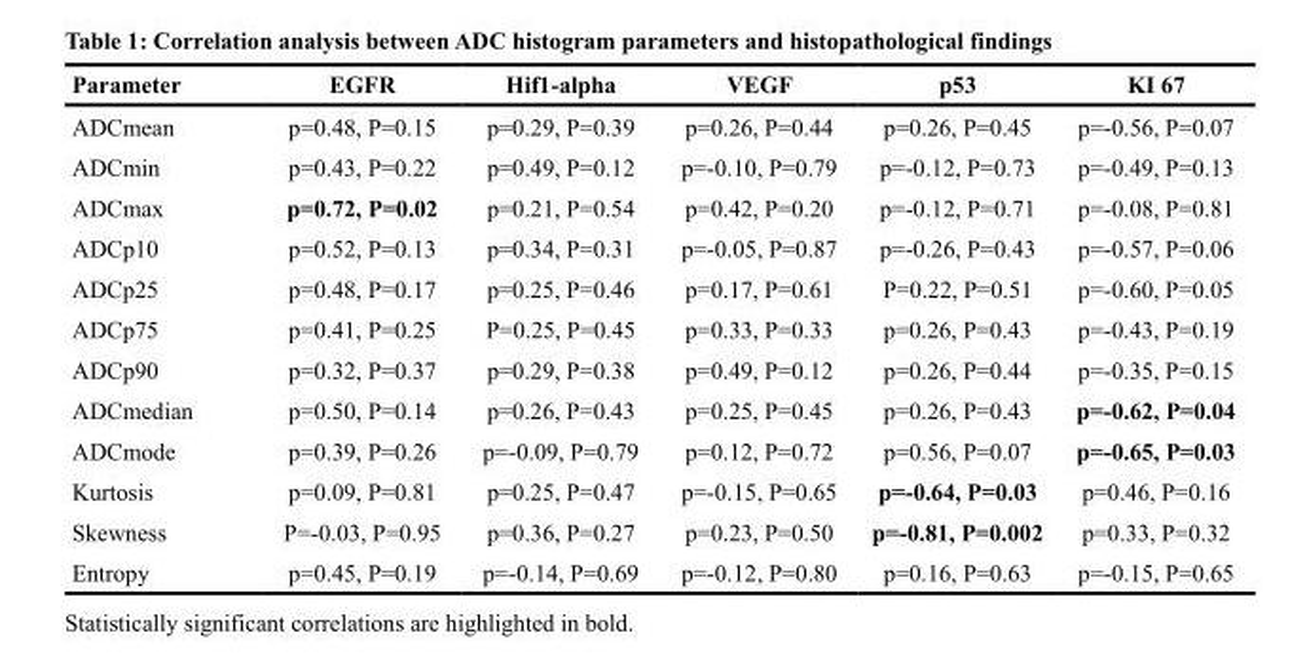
<table><thead><tr><td>Parameter</td><td>EGFR</td><td>Hif1-alpha</td><td>VEGF</td><td>p53</td><td>KI 67</td></tr></thead><tbody><tr><td>ADCmean</td><td>p=0.48, P=0.15</td><td>p=0.29, P=0.39</td><td>p=0.26, P=0.44</td><td>p=0.26, P=0.45</td><td>p=-0.56, P=0.07</td></tr><tr><td>ADCmin</td><td>p=0.43, P=0.22</td><td>p=0.49, P=0.12</td><td>p=-0.10, P=0.79</td><td>p=-0.12, P=0.73</td><td>p=-0.49, P=0.13</td></tr><tr><td>ADCmax</td><td>p=0.72, P=0.02</td><td>p=0.21, P=0.54</td><td>p=0.42, P=0.20</td><td>p=-0.12, P=0.71</td><td>p=-0.08, P=0.81</td></tr><tr><td>ADCp10</td><td>p=0.52, P=0.13</td><td>p=0.34, P=0.31</td><td>p=-0.05, P=0.87</td><td>p=-0.26, P=0.43</td><td>p=-0.57, P=0.06</td></tr><tr><td>ADCp25</td><td>p=0.48, P=0.17</td><td>p=0.25, P=0.46</td><td>p=0.17, P=0.61</td><td>P=0.22, P=0.51</td><td>p=-0.60, P=0.05</td></tr><tr><td>ADCp75</td><td>p=0.41, P=0.25</td><td>P=0.25, P=0.45</td><td>p=0.33, P=0.33</td><td>p=0.26, P=0.43</td><td>p=-0.43, P=0.19</td></tr><tr><td>ADCp90</td><td>p=0.32, P=0.37</td><td>p=0.29, P=0.38</td><td>p=0.49, P=0.12</td><td>p=0.26, P=0.44</td><td>p=-0.35, P=0.15</td></tr><tr><td>ADCmedian</td><td>p=0.50, P=0.14</td><td>p=0.26, P=0.43</td><td>p=0.25, P=0.45</td><td>p=0.26, P=0.43</td><td>p=-0.62, P=0.04</td></tr><tr><td>ADCmode</td><td>p=0.39, P=0.26</td><td>p=-0.09, P=0.79</td><td>p=0.12, P=0.72</td><td>p=0.56, P=0.07</td><td>p=-0.65, P=0.03</td></tr><tr><td>Kurtosis</td><td>p=0.09, P=0.81</td><td>p=0.25, P=0.47</td><td>p=-0.15, P=0.65</td><td>p=-0.64, P=0.03</td><td>p=0.46, P=0.16</td></tr><tr><td>Skewness</td><td>P=-0.03, P=0.95</td><td>p=0.36, P=0.27</td><td>p=0.23, P=0.50</td><td>p=-0.81, P=0.002</td><td>p=0.33, P=0.32</td></tr><tr><td>Entropy</td><td>p=0.45, P=0.19</td><td>p=-0.14, P=0.69</td><td>p=-0.12, P=0.80</td><td>p=0.16, P=0.63</td><td>p=-0.15, P=0.65</td></tr></tbody></table>